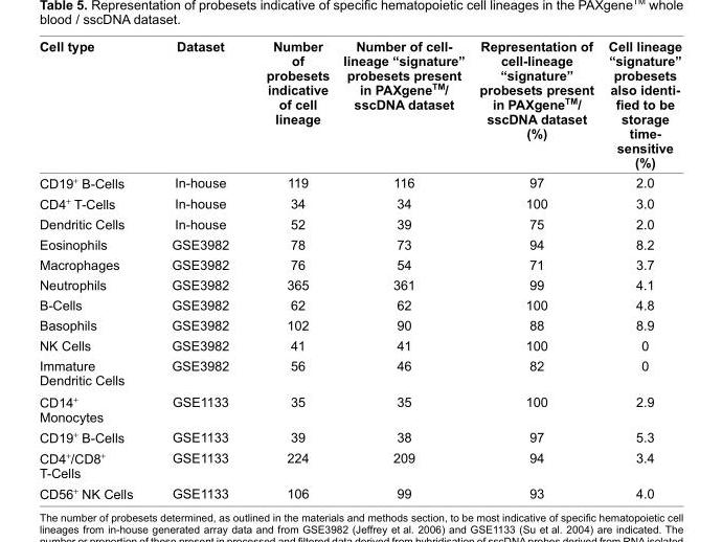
<table><thead><tr><td>Cell type</td><td>Dataset</td><td>Number of probesets indicative of cell lineage</td><td>Number of cell- lineage “signature” probesets present in PAXgene<sup>TM</sup>/ sscDNA dataset</td><td>Representation of cell-lineage “signature” probesets present in PAXgene<sup>TM</sup>/ sscDNA dataset (%)</td><td>Cell lineage “signature” probesets also identi- fi ed to be storage time- sensitive (%)</td></tr></thead><tbody><tr><td>CD19<sup>+</sup> B-Cells</td><td>In-house</td><td>119</td><td>116</td><td>97</td><td>2.0</td></tr><tr><td>CD4<sup>+</sup> T-Cells</td><td>In-house</td><td>34</td><td>34</td><td>100</td><td>3.0</td></tr><tr><td>Dendritic Cells</td><td>In-house</td><td>52</td><td>39</td><td>75</td><td>2.0</td></tr><tr><td>Eosinophils</td><td>GSE3982</td><td>78</td><td>73</td><td>94</td><td>8.2</td></tr><tr><td>Macrophages</td><td>GSE3982</td><td>76</td><td>54</td><td>71</td><td>3.7</td></tr><tr><td>Neutrophils</td><td>GSE3982</td><td>365</td><td>361</td><td>99</td><td>4.1</td></tr><tr><td>B-Cells</td><td>GSE3982</td><td>62</td><td>62</td><td>100</td><td>4.8</td></tr><tr><td>Basophils</td><td>GSE3982</td><td>102</td><td>90</td><td>88</td><td>8.9</td></tr><tr><td>NK Cells</td><td>GSE3982</td><td>41</td><td>41</td><td>100</td><td>0</td></tr><tr><td>Immature Dendritic Cells</td><td>GSE3982</td><td>56</td><td>46</td><td>82</td><td>0</td></tr><tr><td>CD14<sup>+</sup> Monocytes</td><td>GSE1133</td><td>35</td><td>35</td><td>100</td><td>2.9</td></tr><tr><td>CD19<sup>+</sup> B-Cells</td><td>GSE1133</td><td>39</td><td>38</td><td>97</td><td>5.3</td></tr><tr><td>CD4<sup>+</sup>/CD8<sup>+</sup> T-Cells</td><td>GSE1133</td><td>224</td><td>209</td><td>94</td><td>3.4</td></tr><tr><td>CD56<sup>+</sup> NK Cells</td><td>GSE1133</td><td>106</td><td>99</td><td>93</td><td>4.0</td></tr></tbody></table>